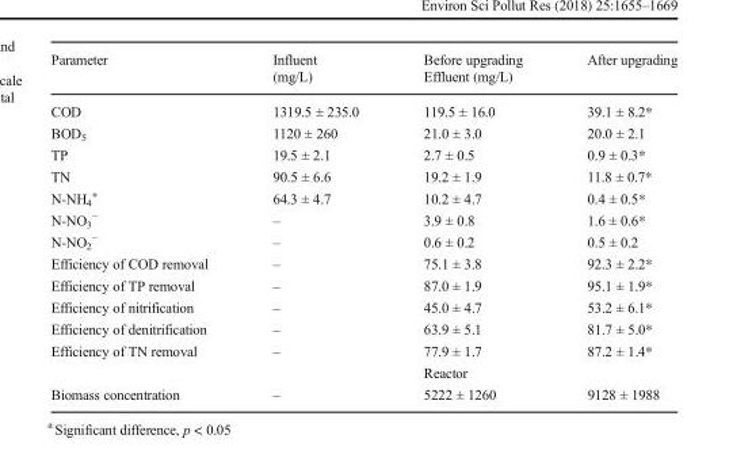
<table><thead><tr><td rowspan="2">Parameter</td><td rowspan="2">Influent (mg/L)</td><td>Before upgrading</td><td>After upgrading</td></tr><tr><td colspan="2">Effluent (mg/L)</td></tr></thead><tbody><tr><td>COD</td><td>1319.5 ± 235.0</td><td>119.5 ± 16.0</td><td>39.1 ± 8.2*</td></tr><tr><td>BOD<sub>5</sub></td><td>1120 ± 260</td><td>21.0 ± 3.0</td><td>20.0 ± 2.1</td></tr><tr><td>TP</td><td>19.5 ± 2.1</td><td>2.7 ± 0.5</td><td>0.9 ± 0.3*</td></tr><tr><td>TN</td><td>90.5 ± 6.6</td><td>19.2 ± 1.9</td><td>11.8 ± 0.7*</td></tr><tr><td>N-NH<sub>4</sub> <sup>+</sup></td><td>64.3 ± 4.7</td><td>10.2 ± 4.7</td><td>0.4 ± 0.5*</td></tr><tr><td>N-NO<sub>3</sub> <sup>−</sup></td><td>–</td><td>3.9 ± 0.8</td><td>1.6 ± 0.6*</td></tr><tr><td>N-NO<sub>2</sub> <sup>−</sup></td><td>–</td><td>0.6 ± 0.2</td><td>0.5 ± 0.2</td></tr><tr><td>Efficiency of COD removal</td><td>–</td><td>75.1 ± 3.8</td><td>92.3 ± 2.2*</td></tr><tr><td>Efficiency of TP removal</td><td>–</td><td>87.0 ± 1.9</td><td>95.1 ± 1.9*</td></tr><tr><td>Efficiency of nitrification</td><td>–</td><td>45.0 ± 4.7</td><td>53.2 ± 6.1*</td></tr><tr><td>Efficiency of denitrification</td><td>–</td><td>63.9 ± 5.1</td><td>81.7 ± 5.0*</td></tr><tr><td rowspan="2">Efficiency of TN removal</td><td>–</td><td>77.9 ± 1.7</td><td>87.2 ± 1.4*</td></tr><tr><td></td><td colspan="2">Reactor</td></tr><tr><td>Biomass concentration</td><td>–</td><td>5222 ± 1260</td><td>9128 ± 1988</td></tr></tbody></table>